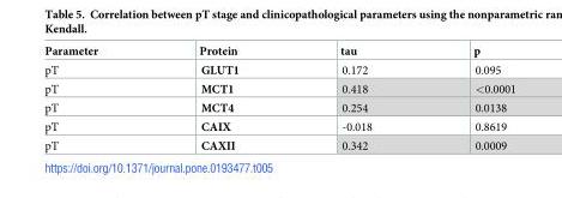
<table><thead><tr><td>Parameter</td><td>Protein</td><td>tau</td><td>p</td></tr></thead><tbody><tr><td>pT</td><td>GLUT1</td><td>0.172</td><td>0.095</td></tr><tr><td>pT</td><td>MCT1</td><td>0.418</td><td>&lt;0.0001</td></tr><tr><td>pT</td><td>MCT4</td><td>0.254</td><td>0.0138</td></tr><tr><td>pT</td><td>CAIX</td><td>-0.018</td><td>0.8619</td></tr><tr><td>pT</td><td>CAXII</td><td>0.342</td><td>0.0009</td></tr></tbody></table>